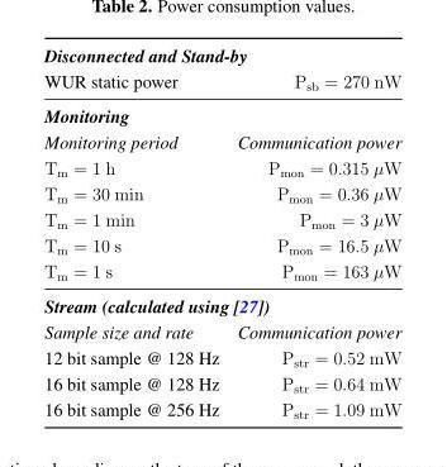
<table><thead><tr><td colspan="2">Disconnected and Stand-by</td></tr><tr><td>WUR static power</td><td>P<sub>sb</sub> = 270 nW</td></tr></thead><tbody><tr><td colspan="2">Monitoring</td></tr><tr><td>Monitoring period</td><td>Communication power</td></tr><tr><td>T<sub>m</sub> = 1 h</td><td>P<sub>mon</sub> = 0.315 µW</td></tr><tr><td>T<sub>m</sub> = 30 min</td><td>P<sub>mon</sub> = 0.36 µW</td></tr><tr><td>T<sub>m</sub> = 1 min</td><td>P<sub>mon</sub> = 3 µW</td></tr><tr><td>T<sub>m</sub> = 10 s</td><td>P<sub>mon</sub> = 16.5 µW</td></tr><tr><td>T<sub>m</sub> = 1 s</td><td>P<sub>mon</sub> = 163 µW</td></tr><tr><td colspan="2">Stream (calculated using [27])</td></tr><tr><td>Sample size and rate</td><td>Communication power</td></tr><tr><td>12 bit sample @ 128 Hz</td><td>P<sub>str</sub> = 0.52 mW</td></tr><tr><td>16 bit sample @ 128 Hz</td><td>P<sub>str</sub> = 0.64 mW</td></tr><tr><td>16 bit sample @ 256 Hz</td><td>P<sub>str</sub> = 1.09 mW</td></tr></tbody></table>